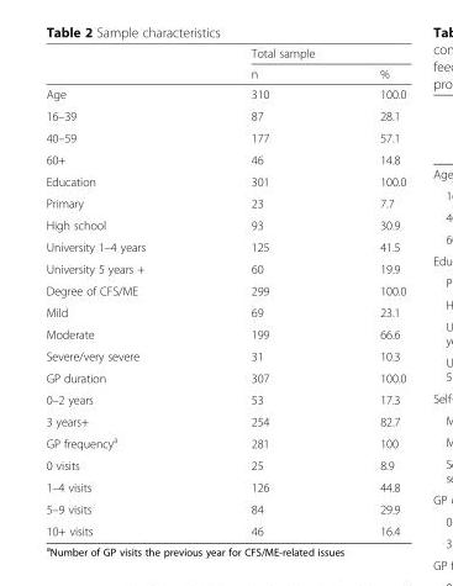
<table><thead><tr><td rowspan="2"></td><td colspan="2">Total sample</td></tr><tr><td>n</td><td>%</td></tr></thead><tbody><tr><td>Age</td><td>310</td><td>100.0</td></tr><tr><td>16–39</td><td>87</td><td>28.1</td></tr><tr><td>40–59</td><td>177</td><td>57.1</td></tr><tr><td>60+</td><td>46</td><td>14.8</td></tr><tr><td>Education</td><td>301</td><td>100.0</td></tr><tr><td>Primary</td><td>23</td><td>7.7</td></tr><tr><td>High school</td><td>93</td><td>30.9</td></tr><tr><td>University 1–4 years</td><td>125</td><td>41.5</td></tr><tr><td>University 5 years +</td><td>60</td><td>19.9</td></tr><tr><td>Degree of CFS/ME</td><td>299</td><td>100.0</td></tr><tr><td>Mild</td><td>69</td><td>23.1</td></tr><tr><td>Moderate</td><td>199</td><td>66.6</td></tr><tr><td>Severe/very severe</td><td>31</td><td>10.3</td></tr><tr><td>GP duration</td><td>307</td><td>100.0</td></tr><tr><td>0–2 years</td><td>53</td><td>17.3</td></tr><tr><td>3 years+</td><td>254</td><td>82.7</td></tr><tr><td>GP frequency<sup>a</sup></td><td>281</td><td>100</td></tr><tr><td>0 visits</td><td>25</td><td>8.9</td></tr><tr><td>1–4 visits</td><td>126</td><td>44.8</td></tr><tr><td>5–9 visits</td><td>84</td><td>29.9</td></tr><tr><td>10+ visits</td><td>46</td><td>16.4</td></tr></tbody></table>